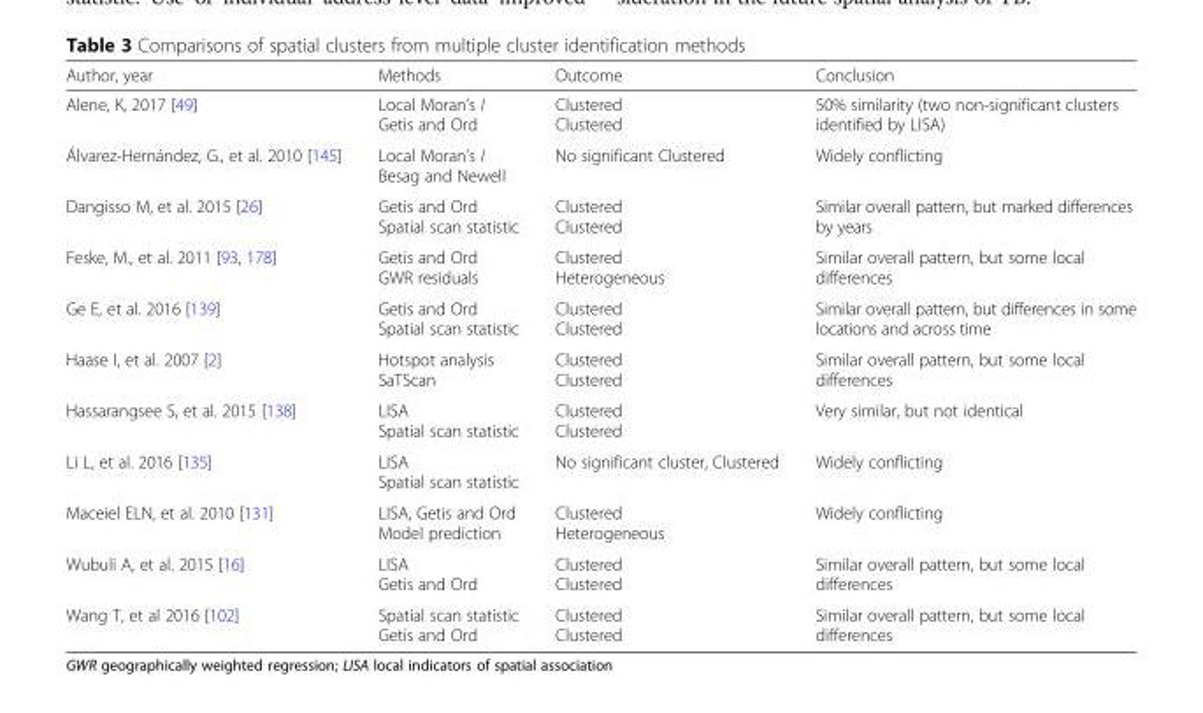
<table><thead><tr><td>Author, year</td><td>Methods</td><td>Outcome</td><td>Conclusion</td></tr></thead><tbody><tr><td>Alene, K, 2017 [49]</td><td>Local Moran’s I Getis and Ord</td><td>Clustered Clustered</td><td>50% similarity (two non-significant clusters identified by LISA)</td></tr><tr><td>Álvarez-Hernández, G., et al. 2010 [145]</td><td>Local Moran’s I Besag and Newell</td><td>No significant Clustered</td><td>Widely conflicting</td></tr><tr><td>Dangisso M, et al. 2015 [26]</td><td>Getis and Ord Spatial scan statistic</td><td>Clustered Clustered</td><td>Similar overall pattern, but marked differences by years</td></tr><tr><td>Feske, M., et al. 2011 [93, 178]</td><td>Getis and Ord GWR residuals</td><td>Clustered Heterogeneous</td><td>Similar overall pattern, but some local differences</td></tr><tr><td>Ge E, et al. 2016 [139]</td><td>Getis and Ord Spatial scan statistic</td><td>Clustered Clustered</td><td>Similar overall pattern, but differences in some locations and across time</td></tr><tr><td>Haase I, et al. 2007 [2]</td><td>Hotspot analysis SaTScan</td><td>Clustered Clustered</td><td>Similar overall pattern, but some local differences</td></tr><tr><td>Hassarangsee S, et al. 2015 [138]</td><td>LISA Spatial scan statistic</td><td>Clustered Clustered</td><td>Very similar, but not identical</td></tr><tr><td>Li L, et al. 2016 [135]</td><td>LISA Spatial scan statistic</td><td>No significant cluster, Clustered</td><td>Widely conflicting</td></tr><tr><td>Maceiel ELN, et al. 2010 [131]</td><td>LISA, Getis and Ord Model prediction</td><td>Clustered Heterogeneous</td><td>Widely conflicting</td></tr><tr><td>Wubuli A, et al. 2015 [16]</td><td>LISA Getis and Ord</td><td>Clustered Clustered</td><td>Similar overall pattern, but some local differences</td></tr><tr><td>Wang T, et al 2016 [102]</td><td>Spatial scan statistic Getis and Ord</td><td>Clustered Clustered</td><td>Similar overall pattern, but some local differences</td></tr></tbody></table>